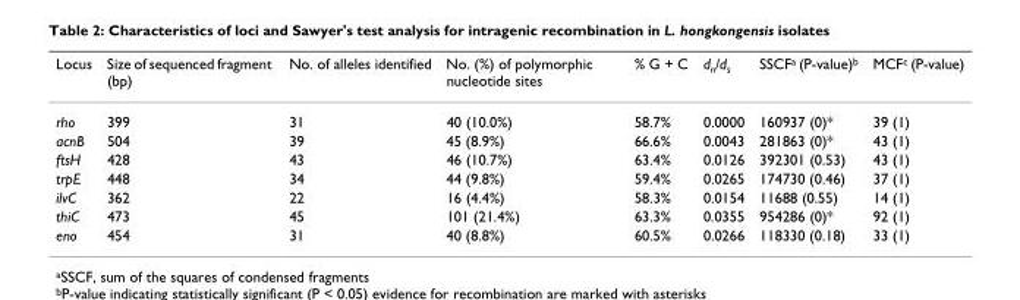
<table><thead><tr><td>Locus</td><td>Size of sequenced fragment (bp)</td><td>No. of alleles identified</td><td>No. (%) of polymorphic nucleotide sites</td><td>% G + C</td><td>d<sub>n</sub>/d<sub>s</sub></td><td>SSCF<sup>a</sup> (P-value)<sup>b</sup></td><td>MCF<sup>c</sup> (P-value)</td></tr></thead><tbody><tr><td>rho</td><td>399</td><td>31</td><td>40 (10.0%)</td><td>58.7%</td><td>0.0000</td><td>160937 (0)*</td><td>39 (1)</td></tr><tr><td>acnB</td><td>504</td><td>39</td><td>45 (8.9%)</td><td>66.6%</td><td>0.0043</td><td>281863 (0)*</td><td>43 (1)</td></tr><tr><td>ftsH</td><td>428</td><td>43</td><td>46 (10.7%)</td><td>63.4%</td><td>0.0126</td><td>392301 (0.53)</td><td>43 (1)</td></tr><tr><td>trpE</td><td>448</td><td>34</td><td>44 (9.8%)</td><td>59.4%</td><td>0.0265</td><td>174730 (0.46)</td><td>37 (1)</td></tr><tr><td>ilvC</td><td>362</td><td>22</td><td>16 (4.4%)</td><td>58.3%</td><td>0.0154</td><td>11688 (0.55)</td><td>14 (1)</td></tr><tr><td>thiC</td><td>473</td><td>45</td><td>101 (21.4%)</td><td>63.3%</td><td>0.0355</td><td>954286 (0)*</td><td>92 (1)</td></tr><tr><td>eno</td><td>454</td><td>31</td><td>40 (8.8%)</td><td>60.5%</td><td>0.0266</td><td>118330 (0.18)</td><td>33 (1)</td></tr></tbody></table>